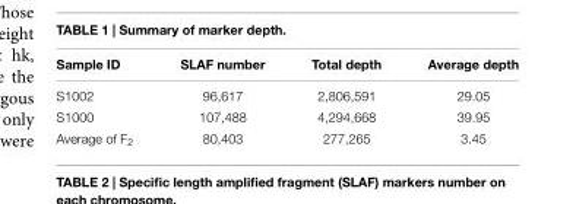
<table><thead><tr><td>Sample ID</td><td>SLAF number</td><td>Total depth</td><td>Average depth</td></tr></thead><tbody><tr><td>S1002</td><td>96,617</td><td>2,806,591</td><td>29.05</td></tr><tr><td>S1000</td><td>107,488</td><td>4,294,668</td><td>39.95</td></tr><tr><td>Average of F<sub>2</sub></td><td>80,403</td><td>277,265</td><td>3.45</td></tr></tbody></table>